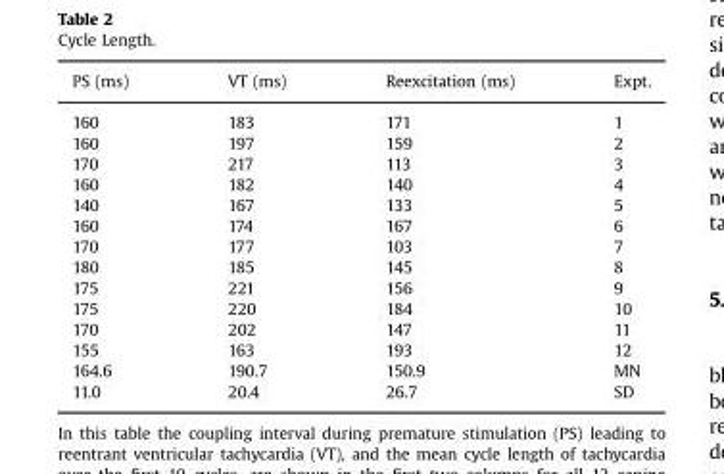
<table><tbody><tr><td>PS (ms)</td><td>VT (ms)</td><td>Reexcitation (ms)</td><td>Expt.</td></tr><tr><td>160</td><td>183</td><td>171</td><td>1</td></tr><tr><td>160</td><td>197</td><td>159</td><td>2</td></tr><tr><td>170</td><td>217</td><td>113</td><td>3</td></tr><tr><td>160</td><td>182</td><td>140</td><td>4</td></tr><tr><td>140</td><td>167</td><td>133</td><td>5</td></tr><tr><td>160</td><td>174</td><td>167</td><td>6</td></tr><tr><td>170</td><td>177</td><td>103</td><td>7</td></tr><tr><td>180</td><td>185</td><td>145</td><td>8</td></tr><tr><td>175</td><td>221</td><td>156</td><td>9</td></tr><tr><td>175</td><td>220</td><td>184</td><td>10</td></tr><tr><td>170</td><td>202</td><td>147</td><td>11</td></tr><tr><td>155</td><td>163</td><td>193</td><td>12</td></tr><tr><td>164.6</td><td>190.7</td><td>150.9</td><td>MN</td></tr><tr><td>11.0</td><td>20.4</td><td>26.7</td><td>SD</td></tr></tbody></table>